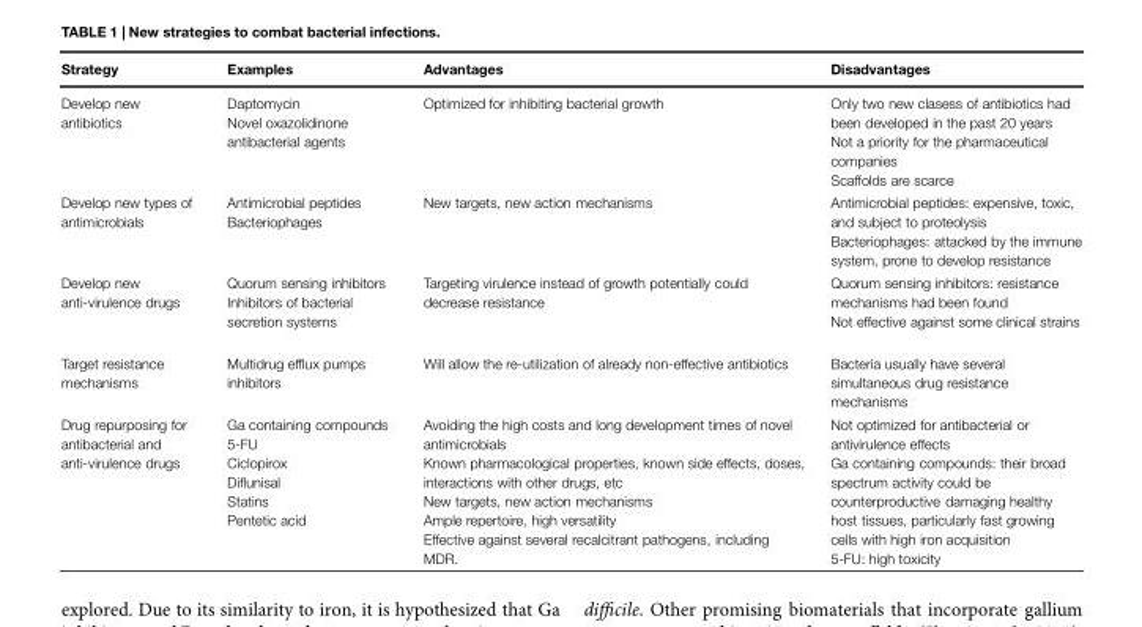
<table><thead><tr><td>Strategy</td><td>Examples</td><td>Advantages</td><td>Disadvantages</td></tr></thead><tbody><tr><td>Develop new antibiotics</td><td>Daptomycin Novel oxazolidinone antibacterial agents</td><td>Optimized for inhibiting bacterial growth</td><td>Only two new clasess of antibiotics had been developed in the past 20 years Not a priority for the pharmaceutical companies Scaffolds are scarce</td></tr><tr><td>Develop new types of antimicrobials</td><td>Antimicrobial peptides Bacteriophages</td><td>New targets, new action mechanisms</td><td>Antimicrobial peptides: expensive, toxic, and subject to proteolysis Bacteriophages: attacked by the immune system, prone to develop resistance</td></tr><tr><td>Develop new anti-virulence drugs</td><td>Quorum sensing inhibitors Inhibitors of bacterial secretion systems</td><td>Targeting virulence instead of growth potentially could decrease resistance</td><td>Quorum sensing inhibitors: resistance mechanisms had been found Not effective against some clinical strains</td></tr><tr><td>Target resistance mechanisms</td><td>Multidrug efflux pumps inhibitors</td><td>Will allow the re-utilization of already non-effective antibiotics</td><td>Bacteria usually have several simultaneous drug resistance mechanisms</td></tr><tr><td>Drug repurposing for antibacterial and anti-virulence drugs</td><td>Ga containing compounds 5-FU Ciclopirox Diflunisal Statins Pentetic acid</td><td>Avoiding the high costs and long development times of novel antimicrobials Known pharmacological properties, known side effects, doses, interactions with other drugs, etc New targets, new action mechanisms Ample repertoire, high versatility Effective against several recalcitrant pathogens, including MDR.</td><td>Not optimized for antibacterial or antivirulence effects Ga containing compounds: their broad spectrum activity could be counterproductive damaging healthy host tissues, particularly fast growing cells with high iron acquisition 5-FU: high toxicity</td></tr></tbody></table>